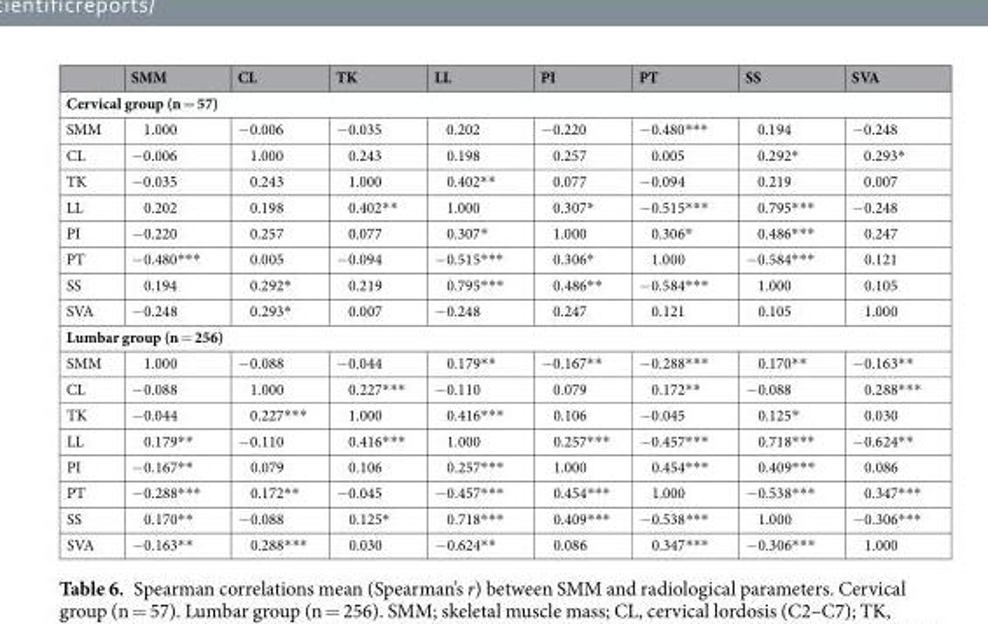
<table><thead><tr><td></td><td>SMM</td><td>CL</td><td>TK</td><td>LL</td><td>PI</td><td>PT</td><td>SS</td><td>SVA</td></tr></thead><tbody><tr><td colspan="9">Cervical group (n = 57)</td></tr><tr><td>SMM</td><td>1.000</td><td>−0.006</td><td>−0.035</td><td>0.202</td><td>−0.220</td><td>−0.480***</td><td>0.194</td><td>−0.248</td></tr><tr><td>CL</td><td>−0.006</td><td>1.000</td><td>0.243</td><td>0.198</td><td>0.257</td><td>0.005</td><td>0.292*</td><td>0.293*</td></tr><tr><td>TK</td><td>−0.035</td><td>0.243</td><td>1.000</td><td>0.402**</td><td>0.077</td><td>−0.094</td><td>0.219</td><td>0.007</td></tr><tr><td>LL</td><td>0.202</td><td>0.198</td><td>0.402**</td><td>1.000</td><td>0.307*</td><td>−0.515***</td><td>0.795***</td><td>−0.248</td></tr><tr><td>PI</td><td>−0.220</td><td>0.257</td><td>0.077</td><td>0.307*</td><td>1.000</td><td>0.306*</td><td>0.486***</td><td>0.247</td></tr><tr><td>PT</td><td>−0.480***</td><td>0.005</td><td>−0.094</td><td>−0.515***</td><td>0.306*</td><td>1.000</td><td>−0.584***</td><td>0.121</td></tr><tr><td>SS</td><td>0.194</td><td>0.292*</td><td>0.219</td><td>0.795***</td><td>0.486**</td><td>−0.584***</td><td>1.000</td><td>0.105</td></tr><tr><td>SVA</td><td>−0.248</td><td>0.293*</td><td>0.007</td><td>−0.248</td><td>0.247</td><td>0.121</td><td>0.105</td><td>1.000</td></tr><tr><td colspan="9">Lumbar group (n = 256)</td></tr><tr><td>SMM</td><td>1.000</td><td>−0.088</td><td>−0.044</td><td>0.179**</td><td>−0.167**</td><td>−0.288***</td><td>0.170**</td><td>−0.163**</td></tr><tr><td>CL</td><td>−0.088</td><td>1.000</td><td>0.227***</td><td>−0.110</td><td>0.079</td><td>0.172**</td><td>−0.088</td><td>0.288***</td></tr><tr><td>TK</td><td>−0.044</td><td>0.227***</td><td>1.000</td><td>0.416***</td><td>0.106</td><td>−0.045</td><td>0.125*</td><td>0.030</td></tr><tr><td>LL</td><td>0.179**</td><td>−0.110</td><td>0.416***</td><td>1.000</td><td>0.257***</td><td>−0.457***</td><td>0.718***</td><td>−0.624**</td></tr><tr><td>PI</td><td>−0.167**</td><td>0.079</td><td>0.106</td><td>0.257***</td><td>1.000</td><td>0.454***</td><td>0.409***</td><td>0.086</td></tr><tr><td>PT</td><td>−0.288***</td><td>0.172**</td><td>−0.045</td><td>−0.457***</td><td>0.454***</td><td>1.000</td><td>−0.538***</td><td>0.347***</td></tr><tr><td>SS</td><td>0.170**</td><td>−0.088</td><td>0.125*</td><td>0.718***</td><td>0.409***</td><td>−0.538***</td><td>1.000</td><td>−0.306***</td></tr><tr><td>SVA</td><td>−0.163**</td><td>0.288***</td><td>0.030</td><td>−0.624**</td><td>0.086</td><td>0.347***</td><td>−0.306***</td><td>1.000</td></tr></tbody></table>